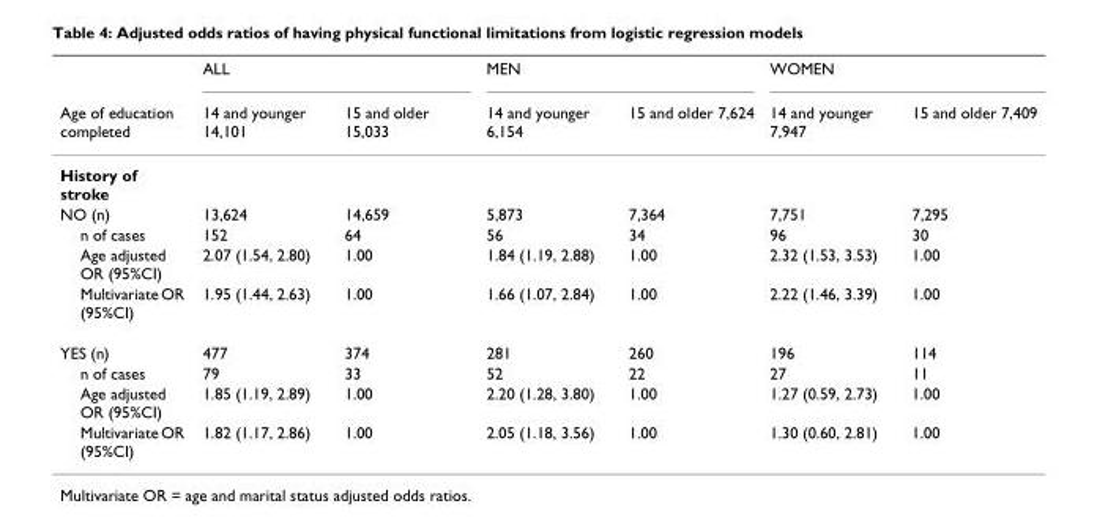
<table><thead><tr><td rowspan="2">Age of education completed</td><td colspan="2">ALL</td><td colspan="2">MEN</td><td colspan="2">WOMEN</td></tr><tr><td>14 and younger 14,101</td><td>15 and older 15,033</td><td>14 and younger 6,154</td><td>15 and older 7,624</td><td>14 and younger 7,947</td><td>15 and older 7,409</td></tr></thead><tbody><tr><td colspan="7">History of stroke</td></tr><tr><td>NO (n)</td><td>13,624</td><td>14,659</td><td>5,873</td><td>7,364</td><td>7,751</td><td>7,295</td></tr><tr><td>n of cases</td><td>152</td><td>64</td><td>56</td><td>34</td><td>96</td><td>30</td></tr><tr><td>Age adjusted OR (95%CI)</td><td>2.07 (1.54, 2.80)</td><td>1.00</td><td>1.84 (1.19, 2.88)</td><td>1.00</td><td>2.32 (1.53, 3.53)</td><td>1.00</td></tr><tr><td>Multivariate OR (95%CI)</td><td>1.95 (1.44, 2.63)</td><td>1.00</td><td>1.66 (1.07, 2.84)</td><td>1.00</td><td>2.22 (1.46, 3.39)</td><td>1.00</td></tr><tr><td>YES (n)</td><td>477</td><td>374</td><td>281</td><td>260</td><td>196</td><td>114</td></tr><tr><td>n of cases</td><td>79</td><td>33</td><td>52</td><td>22</td><td>27</td><td>11</td></tr><tr><td>Age adjusted OR (95%CI)</td><td>1.85 (1.19, 2.89)</td><td>1.00</td><td>2.20 (1.28, 3.80)</td><td>1.00</td><td>1.27 (0.59, 2.73)</td><td>1.00</td></tr><tr><td>Multivariate OR (95%CI)</td><td>1.82 (1.17, 2.86)</td><td>1.00</td><td>2.05 (1.18, 3.56)</td><td>1.00</td><td>1.30 (0.60, 2.81)</td><td>1.00</td></tr></tbody></table>